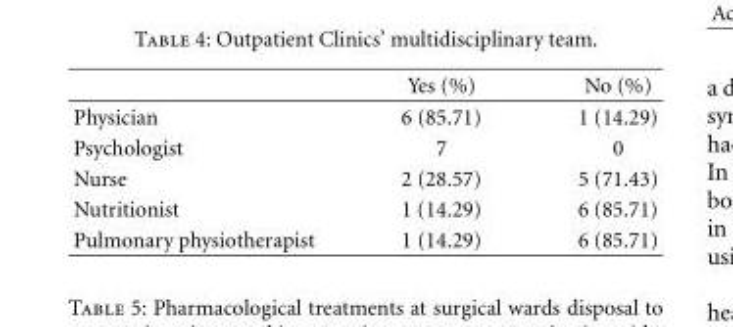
<table><thead><tr><td></td><td>Yes (%)</td><td>No (%)</td></tr></thead><tbody><tr><td>Physician</td><td>6 (85.71)</td><td>1 (14.29)</td></tr><tr><td>Psychologist</td><td>7</td><td>0</td></tr><tr><td>Nurse</td><td>2 (28.57)</td><td>5 (71.43)</td></tr><tr><td>Nutritionist</td><td>1 (14.29)</td><td>6 (85.71)</td></tr><tr><td>Pulmonary physiotherapist</td><td>1 (14.29)</td><td>6 (85.71)</td></tr></tbody></table>